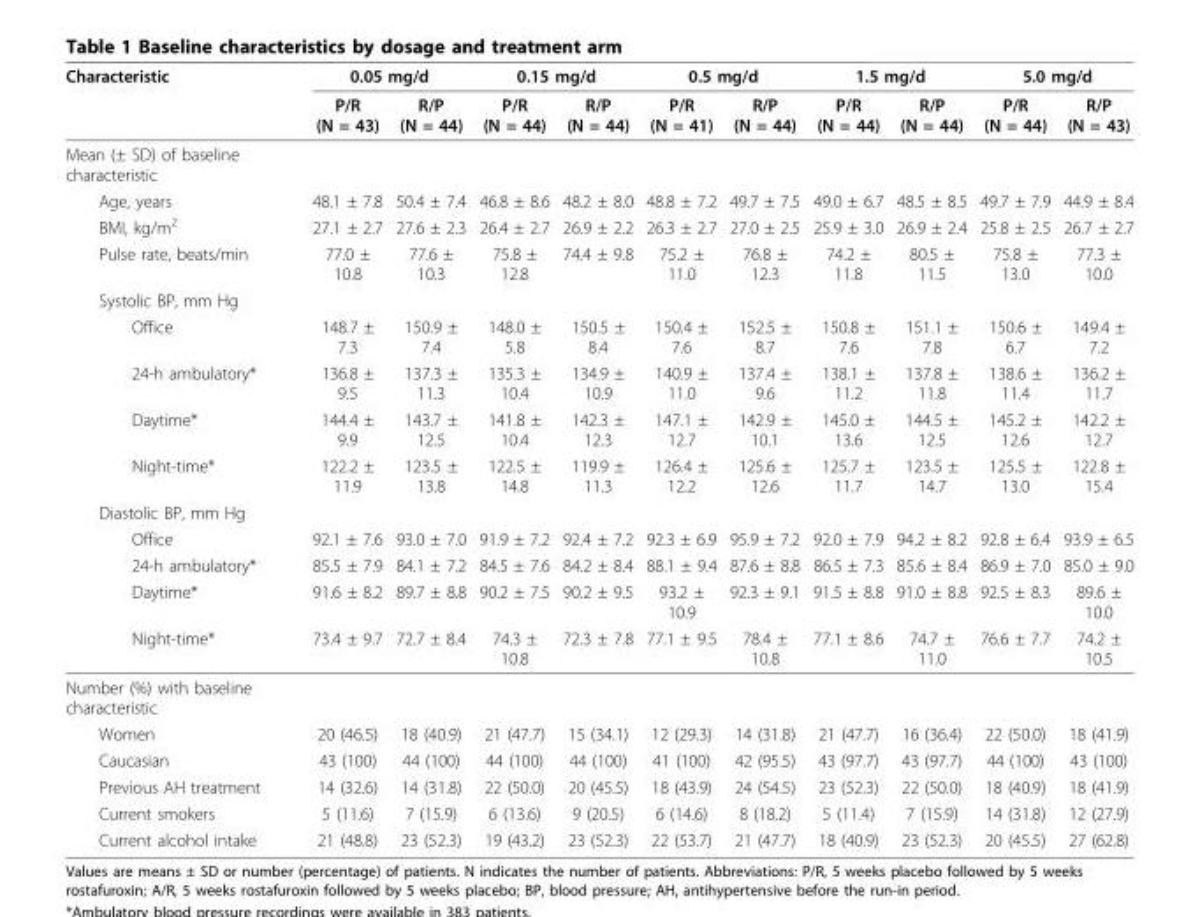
<table><thead><tr><td rowspan="2">Characteristic</td><td colspan="2">0.05 mg/d</td><td colspan="2">0.15 mg/d</td><td colspan="2">0.5 mg/d</td><td colspan="2">1.5 mg/d</td><td colspan="2">5.0 mg/d</td></tr><tr><td>P/R (N = 43)</td><td>R/P (N = 44)</td><td>P/R (N = 44)</td><td>R/P (N = 44)</td><td>P/R (N = 41)</td><td>R/P (N = 44)</td><td>P/R (N = 44)</td><td>R/P (N = 44)</td><td>P/R (N = 44)</td><td>R/P (N = 43)</td></tr></thead><tbody><tr><td colspan="11">Mean (± SD) of baseline characteristic</td></tr><tr><td>Age, years</td><td>48.1 ± 7.8</td><td>50.4 ± 7.4</td><td>46.8 ± 8.6</td><td>48.2 ± 8.0</td><td>48.8 ± 7.2</td><td>49.7 ± 7.5</td><td>49.0 ± 6.7</td><td>48.5 ± 8.5</td><td>49.7 ± 7.9</td><td>44.9 ± 8.4</td></tr><tr><td>BMI, kg/m<sup>2</sup></td><td>27.1 ± 2.7</td><td>27.6 ± 2.3</td><td>26.4 ± 2.7</td><td>26.9 ± 2.2</td><td>26.3 ± 2.7</td><td>27.0 ± 2.5</td><td>25.9 ± 3.0</td><td>26.9 ± 2.4</td><td>25.8 ± 2.5</td><td>26.7 ± 2.7</td></tr><tr><td>Pulse rate, beats/min</td><td>77.0 ± 10.8</td><td>77.6 ± 10.3</td><td>75.8 ± 12.8</td><td>74.4 ± 9.8</td><td>75.2 ± 11.0</td><td>76.8 ± 12.3</td><td>74.2 ± 11.8</td><td>80.5 ± 11.5</td><td>75.8 ± 13.0</td><td>77.3 ± 10.0</td></tr><tr><td colspan="11">Systolic BP, mm Hg</td></tr><tr><td>Office</td><td>148.7 ± 7.3</td><td>150.9 ± 7.4</td><td>148.0 ± 5.8</td><td>150.5 ± 8.4</td><td>150.4 ± 7.6</td><td>152.5 ± 8.7</td><td>150.8 ± 7.6</td><td>151.1 ± 7.8</td><td>150.6 ± 6.7</td><td>149.4 ± 7.2</td></tr><tr><td>24-h ambulatory*</td><td>136.8 ± 9.5</td><td>137.3 ± 11.3</td><td>135.3 ± 10.4</td><td>134.9 ± 10.9</td><td>140.9 ± 11.0</td><td>137.4 ± 9.6</td><td>138.1 ± 11.2</td><td>137.8 ± 11.8</td><td>138.6 ± 11.4</td><td>136.2 ± 11.7</td></tr><tr><td>Daytime*</td><td>144.4 ± 9.9</td><td>143.7 ± 12.5</td><td>141.8 ± 10.4</td><td>142.3 ± 12.3</td><td>147.1 ± 12.7</td><td>142.9 ± 10.1</td><td>145.0 ± 13.6</td><td>144.5 ± 12.5</td><td>145.2 ± 12.6</td><td>142.2 ± 12.7</td></tr><tr><td>Night-time*</td><td>122.2 ± 11.9</td><td>123.5 ± 13.8</td><td>122.5 ± 14.8</td><td>119.9 ± 11.3</td><td>126.4 ± 12.2</td><td>125.6 ± 12.6</td><td>125.7 ± 11.7</td><td>123.5 ± 14.7</td><td>125.5 ± 13.0</td><td>122.8 ± 15.4</td></tr><tr><td colspan="11">Diastolic BP, mm Hg</td></tr><tr><td>Office</td><td>92.1 ± 7.6</td><td>93.0 ± 7.0</td><td>91.9 ± 7.2</td><td>92.4 ± 7.2</td><td>92.3 ± 6.9</td><td>95.9 ± 7.2</td><td>92.0 ± 7.9</td><td>94.2 ± 8.2</td><td>92.8 ± 6.4</td><td>93.9 ± 6.5</td></tr><tr><td>24-h ambulatory*</td><td>85.5 ± 7.9</td><td>84.1 ± 7.2</td><td>84.5 ± 7.6</td><td>84.2 ± 8.4</td><td>88.1 ± 9.4</td><td>87.6 ± 8.8</td><td>86.5 ± 7.3</td><td>85.6 ± 8.4</td><td>86.9 ± 7.0</td><td>85.0 ± 9.0</td></tr><tr><td>Daytime*</td><td>91.6 ± 8.2</td><td>89.7 ± 8.8</td><td>90.2 ± 7.5</td><td>90.2 ± 9.5</td><td>93.2 ± 10.9</td><td>92.3 ± 9.1</td><td>91.5 ± 8.8</td><td>91.0 ± 8.8</td><td>92.5 ± 8.3</td><td>89.6 ± 10.0</td></tr><tr><td>Night-time*</td><td>73.4 ± 9.7</td><td>72.7 ± 8.4</td><td>74.3 ± 10.8</td><td>72.3 ± 7.8</td><td>77.1 ± 9.5</td><td>78.4 ± 10.8</td><td>77.1 ± 8.6</td><td>74.7 ± 11.0</td><td>76.6 ± 7.7</td><td>74.2 ± 10.5</td></tr><tr><td colspan="11">Number (%) with baseline characteristic</td></tr><tr><td>Women</td><td>20 (46.5)</td><td>18 (40.9)</td><td>21 (47.7)</td><td>15 (34.1)</td><td>12 (29.3)</td><td>14 (31.8)</td><td>21 (47.7)</td><td>16 (36.4)</td><td>22 (50.0)</td><td>18 (41.9)</td></tr><tr><td>Caucasian</td><td>43 (100)</td><td>44 (100)</td><td>44 (100)</td><td>44 (100)</td><td>41 (100)</td><td>42 (95.5)</td><td>43 (97.7)</td><td>43 (97.7)</td><td>44 (100)</td><td>43 (100)</td></tr><tr><td>Previous AH treatment</td><td>14 (32.6)</td><td>14 (31.8)</td><td>22 (50.0)</td><td>20 (45.5)</td><td>18 (43.9)</td><td>24 (54.5)</td><td>23 (52.3)</td><td>22 (50.0)</td><td>18 (40.9)</td><td>18 (41.9)</td></tr><tr><td>Current smokers</td><td>5 (11.6)</td><td>7 (15.9)</td><td>6 (13.6)</td><td>9 (20.5)</td><td>6 (14.6)</td><td>8 (18.2)</td><td>5 (11.4)</td><td>7 (15.9)</td><td>14 (31.8)</td><td>12 (27.9)</td></tr><tr><td>Current alcohol intake</td><td>21 (48.8)</td><td>23 (52.3)</td><td>19 (43.2)</td><td>23 (52.3)</td><td>22 (53.7)</td><td>21 (47.7)</td><td>18 (40.9)</td><td>23 (52.3)</td><td>20 (45.5)</td><td>27 (62.8)</td></tr></tbody></table>